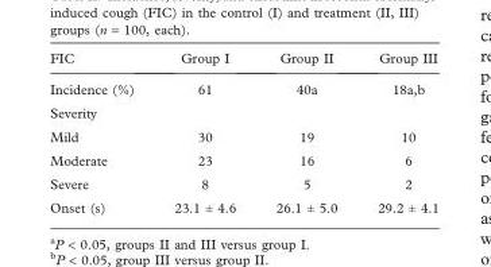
<table><thead><tr><td>FIC</td><td>Group I</td><td>Group II</td><td>Group III</td></tr></thead><tbody><tr><td>Incidence (%)</td><td>61</td><td>40<sup>a</sup></td><td>18<sup>a</sup>,<sup>b</sup></td></tr><tr><td colspan="4">Severity</td></tr><tr><td>Mild</td><td>30</td><td>19</td><td>10</td></tr><tr><td>Moderate</td><td>23</td><td>16</td><td>6</td></tr><tr><td>Severe</td><td>8</td><td>5</td><td>2</td></tr><tr><td>Onset (s)</td><td>23.1 ± 4.6</td><td>26.1 ± 5.0</td><td>29.2 ± 4.1</td></tr></tbody></table>